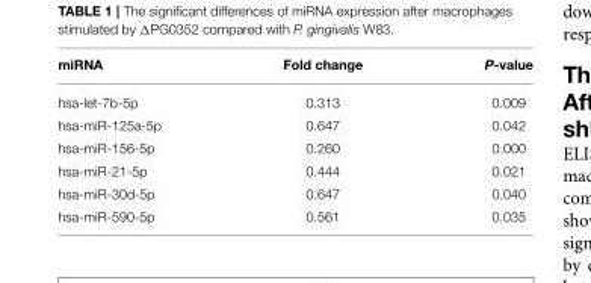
<table><thead><tr><td>miRNA</td><td>Fold change</td><td>P-value</td></tr></thead><tbody><tr><td>hsa-let-7b-5p</td><td>0.313</td><td>0.009</td></tr><tr><td>hsa-miR-125a-5p</td><td>0.647</td><td>0.042</td></tr><tr><td>hsa-miR-156-5p</td><td>0.260</td><td>0.000</td></tr><tr><td>hsa-miR-21-5p</td><td>0.444</td><td>0.021</td></tr><tr><td>hsa-miR-30d-5p</td><td>0.647</td><td>0.040</td></tr><tr><td>hsa-miR-590-5p</td><td>0.561</td><td>0.035</td></tr></tbody></table>